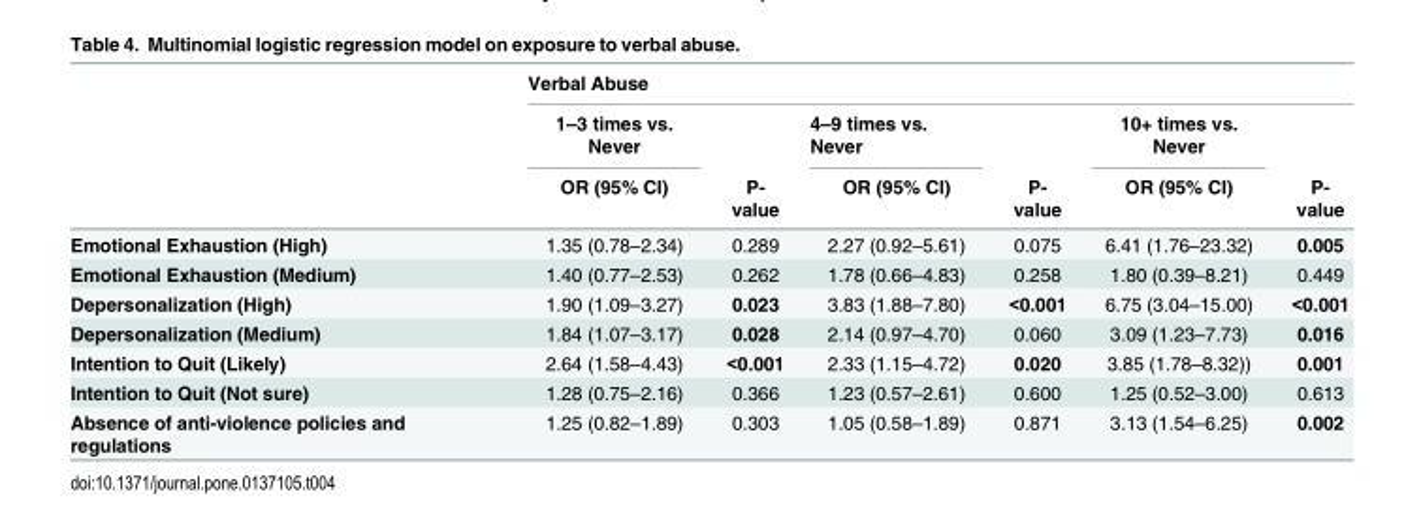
<table><thead><tr><td rowspan="3"></td><td colspan="6">Verbal Abuse</td></tr><tr><td rowspan="2">1–3 times vs. Never OR (95% CI)</td><td rowspan="2">P- value</td><td rowspan="2">4–9 times vs. Never OR (95% CI)</td><td rowspan="2">P- value</td><td rowspan="2">10+ times vs. Never OR (95% CI)</td><td rowspan="2">P- value</td></tr><tr></tr></thead><tbody><tr><td>Emotional Exhaustion (High)</td><td>1.35 (0.78–2.34)</td><td>0.289</td><td>2.27 (0.92–5.61)</td><td>0.075</td><td>6.41 (1.76–23.32)</td><td>0.005</td></tr><tr><td>Emotional Exhaustion (Medium)</td><td>1.40 (0.77–2.53)</td><td>0.262</td><td>1.78 (0.66–4.83)</td><td>0.258</td><td>1.80 (0.39–8.21)</td><td>0.449</td></tr><tr><td>Depersonalization (High)</td><td>1.90 (1.09–3.27)</td><td>0.023</td><td>3.83 (1.88–7.80)</td><td>&lt;0.001</td><td>6.75 (3.04–15.00)</td><td>&lt;0.001</td></tr><tr><td>Depersonalization (Medium)</td><td>1.84 (1.07–3.17)</td><td>0.028</td><td>2.14 (0.97–4.70)</td><td>0.060</td><td>3.09 (1.23–7.73)</td><td>0.016</td></tr><tr><td>Intention to Quit (Likely)</td><td>2.64 (1.58–4.43)</td><td>&lt;0.001</td><td>2.33 (1.15–4.72)</td><td>0.020</td><td>3.85 (1.78–8.32))</td><td>0.001</td></tr><tr><td>Intention to Quit (Not sure)</td><td>1.28 (0.75–2.16)</td><td>0.366</td><td>1.23 (0.57–2.61)</td><td>0.600</td><td>1.25 (0.52–3.00)</td><td>0.613</td></tr><tr><td>Absence of anti-violence policies and regulations</td><td>1.25 (0.82–1.89)</td><td>0.303</td><td>1.05 (0.58–1.89)</td><td>0.871</td><td>3.13 (1.54–6.25)</td><td>0.002</td></tr></tbody></table>